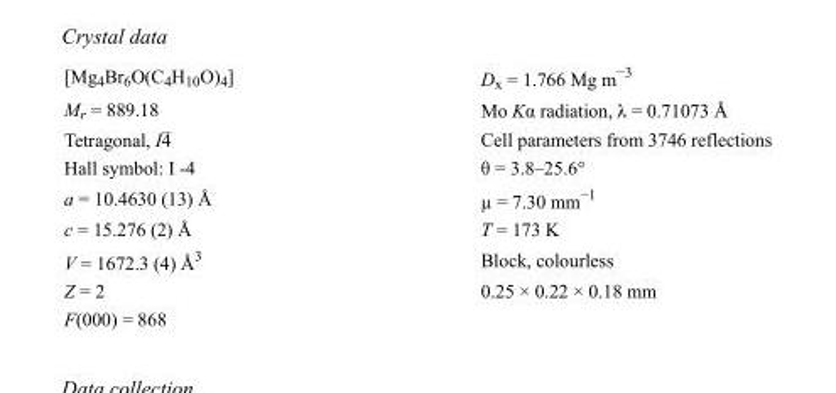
<table><tbody><tr><td>[Mg<sub>4</sub>Br<sub>6</sub>O(C<sub>4</sub>H<sub>10</sub>O)<sub>4</sub>]</td><td>D<sub>x</sub> = 1.766 Mg m<sup>−3</sup></td></tr><tr><td>M<sub>r</sub> = 889.18</td><td>Mo Kα radiation, λ = 0.71073 Å</td></tr><tr><td>Tetragonal, I4</td><td>Cell parameters from 3746 reflections</td></tr><tr><td>Hall symbol: I -4</td><td>θ = 3.8–25.6°</td></tr><tr><td>a = 10.4630 (13) Å</td><td>µ = 7.30 mm<sup>−1</sup></td></tr><tr><td>c = 15.276 (2) Å</td><td>T = 173 K</td></tr><tr><td>V = 1672.3 (4) Å<sup>3</sup></td><td>Block, colourless</td></tr><tr><td>Z = 2</td><td>0.25 × 0.22 × 0.18 mm</td></tr><tr><td>F(000) = 868</td><td></td></tr></tbody></table>